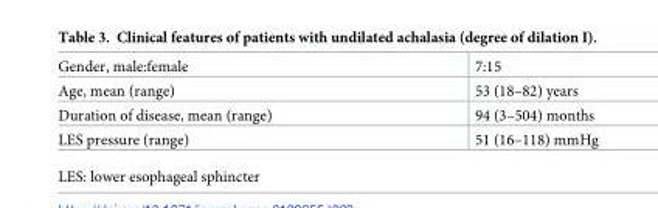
<table><tbody><tr><td>Gender, male:female</td><td>7:15</td></tr><tr><td>Age, mean (range)</td><td>53 (18–82) years</td></tr><tr><td>Duration of disease, mean (range)</td><td>94 (3–504) months</td></tr><tr><td>LES pressure (range)</td><td>51 (16–118) mmHg</td></tr></tbody></table>